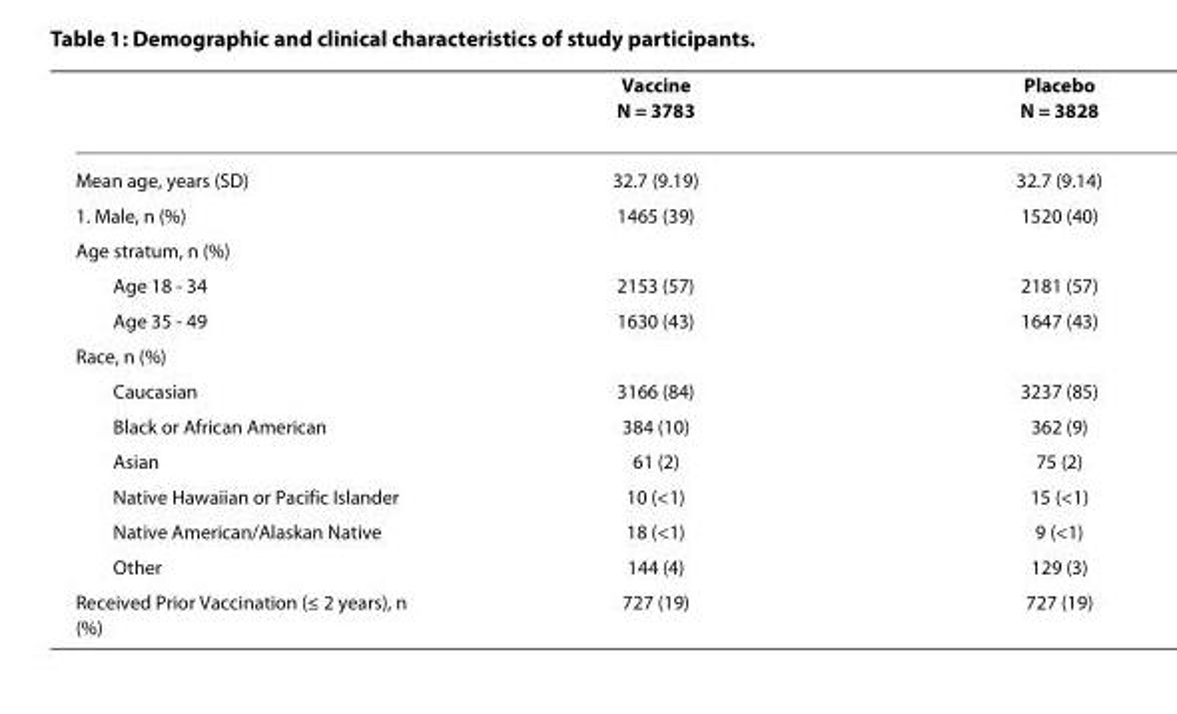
<table><thead><tr><td></td><td>Vaccine N = 3783</td><td>Placebo N = 3828</td></tr></thead><tbody><tr><td>Mean age, years (SD)</td><td>32.7 (9.19)</td><td>32.7 (9.14)</td></tr><tr><td>1. Male, n (%)</td><td>1465 (39)</td><td>1520 (40)</td></tr><tr><td colspan="3">Age stratum, n (%)</td></tr><tr><td>Age 18 - 34</td><td>2153 (57)</td><td>2181 (57)</td></tr><tr><td>Age 35 - 49</td><td>1630 (43)</td><td>1647 (43)</td></tr><tr><td colspan="3">Race, n (%)</td></tr><tr><td>Caucasian</td><td>3166 (84)</td><td>3237 (85)</td></tr><tr><td>Black or African American</td><td>384 (10)</td><td>362 (9)</td></tr><tr><td>Asian</td><td>61 (2)</td><td>75 (2)</td></tr><tr><td>Native Hawaiian or Pacific Islander</td><td>10 (&lt;1)</td><td>15 (&lt;1)</td></tr><tr><td>Native American/Alaskan Native</td><td>18 (&lt;1)</td><td>9 (&lt;1)</td></tr><tr><td>Other</td><td>144 (4)</td><td>129 (3)</td></tr><tr><td>Received Prior Vaccination (≤ 2 years), n (%)</td><td>727 (19)</td><td>727 (19)</td></tr></tbody></table>